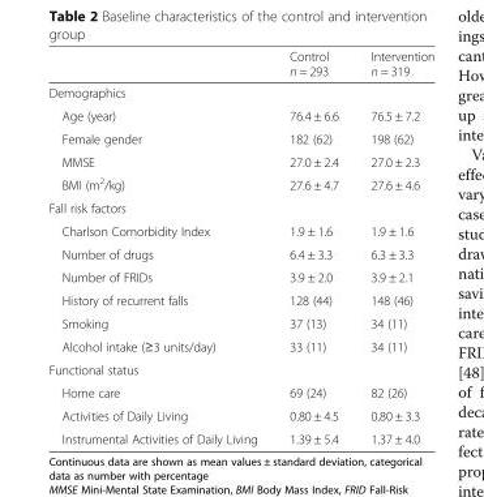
<table><thead><tr><td></td><td>Control n = 293</td><td>Intervention n = 319</td></tr></thead><tbody><tr><td colspan="3">Demographics</td></tr><tr><td>Age (year)</td><td>76.4 ± 6.6</td><td>76.5 ± 7.2</td></tr><tr><td>Female gender</td><td>182 (62)</td><td>198 (62)</td></tr><tr><td>MMSE</td><td>27.0 ± 2.4</td><td>27.0 ± 2.3</td></tr><tr><td>BMI (m<sup>2</sup>/kg)</td><td>27.6 ± 4.7</td><td>27.6 ± 4.6</td></tr><tr><td colspan="3">Fall risk factors</td></tr><tr><td>Charlson Comorbidity Index</td><td>1.9 ± 1.6</td><td>1.9 ± 1.6</td></tr><tr><td>Number of drugs</td><td>6.4 ± 3.3</td><td>6.3 ± 3.3</td></tr><tr><td>Number of FRIDs</td><td>3.9 ± 2.0</td><td>3.9 ± 2.1</td></tr><tr><td>History of recurrent falls</td><td>128 (44)</td><td>148 (46)</td></tr><tr><td>Smoking</td><td>37 (13)</td><td>34 (11)</td></tr><tr><td>Alcohol intake (≥3 units/day)</td><td>33 (11)</td><td>34 (11)</td></tr><tr><td colspan="3">Functional status</td></tr><tr><td>Home care</td><td>69 (24)</td><td>82 (26)</td></tr><tr><td>Activities of Daily Living</td><td>0.80 ± 4.5</td><td>0.80 ± 3.3</td></tr><tr><td>Instrumental Activities of Daily Living</td><td>1.39 ± 5.4</td><td>1.37 ± 4.0</td></tr></tbody></table>